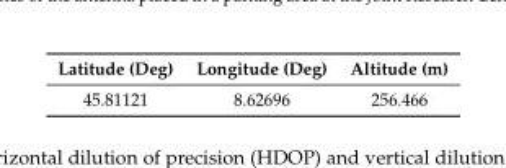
<table><thead><tr><td>Latitude (Deg)</td><td>Longitude (Deg)</td><td>Altitude (m)</td></tr></thead><tbody><tr><td>45.81121</td><td>8.62696</td><td>256.466</td></tr></tbody></table>